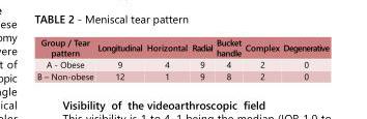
<table><tbody><tr><td>Group / Tear pattern</td><td>Longitudinal</td><td>Horizontal</td><td>Radial</td><td>Bucket handle</td><td>Complex</td><td>Degenerative</td></tr><tr><td>A - Obese</td><td>9</td><td>4</td><td>9</td><td>4</td><td>2</td><td>0</td></tr><tr><td>B – Non-obese</td><td>12</td><td>1</td><td>9</td><td>8</td><td>2</td><td>0</td></tr></tbody></table>